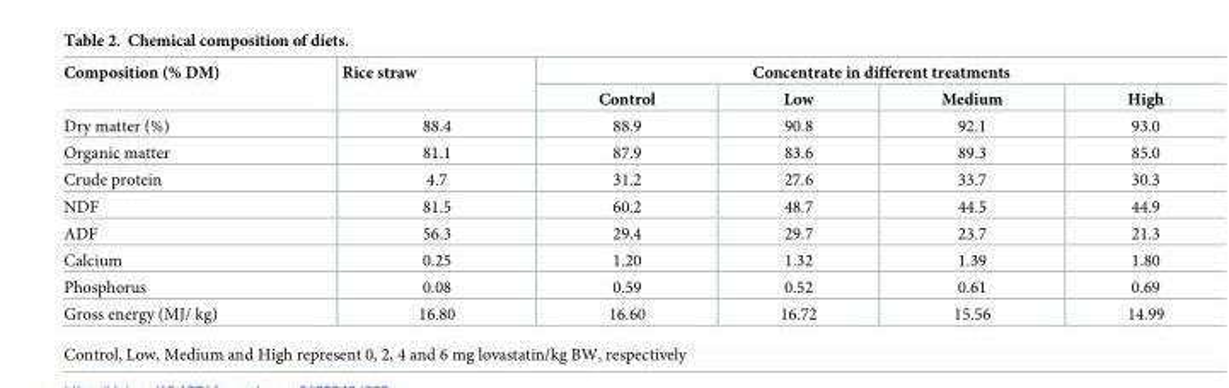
<table><thead><tr><td rowspan="2">Composition (% DM)</td><td rowspan="2">Rice straw</td><td colspan="4">Concentrate in different treatments</td></tr><tr><td>Control</td><td>Low</td><td>Medium</td><td>High</td></tr></thead><tbody><tr><td>Dry matter (%)</td><td>88.4</td><td>88.9</td><td>90.8</td><td>92.1</td><td>93.0</td></tr><tr><td>Organic matter</td><td>81.1</td><td>87.9</td><td>83.6</td><td>89.3</td><td>85.0</td></tr><tr><td>Crude protein</td><td>4.7</td><td>31.2</td><td>27.6</td><td>33.7</td><td>30.3</td></tr><tr><td>NDF</td><td>81.5</td><td>60.2</td><td>48.7</td><td>44.5</td><td>44.9</td></tr><tr><td>ADF</td><td>56.3</td><td>29.4</td><td>29.7</td><td>23.7</td><td>21.3</td></tr><tr><td>Calcium</td><td>0.25</td><td>1.20</td><td>1.32</td><td>1.39</td><td>1.80</td></tr><tr><td>Phosphorus</td><td>0.08</td><td>0.59</td><td>0.52</td><td>0.61</td><td>0.69</td></tr><tr><td>Gross energy (MJ/ kg)</td><td>16.80</td><td>16.60</td><td>16.72</td><td>15.56</td><td>14.99</td></tr></tbody></table>